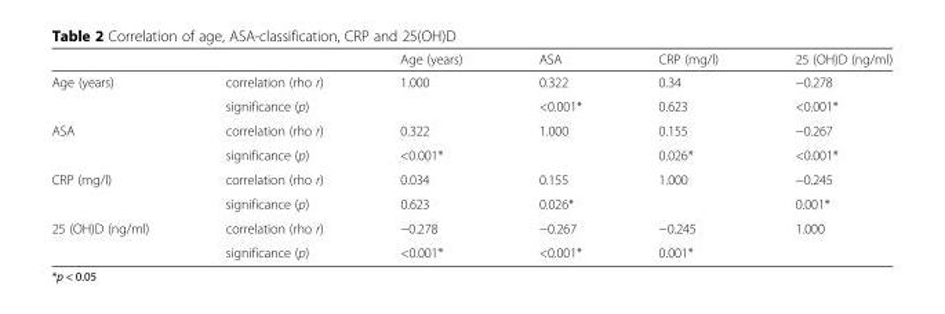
<table><thead><tr><td></td><td></td><td>Age (years)</td><td>ASA</td><td>CRP (mg/l)</td><td>25 (OH)D (ng/ml)</td></tr></thead><tbody><tr><td rowspan="2">Age (years)</td><td>correlation (rho r)</td><td>1.000</td><td>0.322</td><td>0.34</td><td>−0.278</td></tr><tr><td>significance (p)</td><td></td><td>&lt;0.001*</td><td>0.623</td><td>&lt;0.001*</td></tr><tr><td rowspan="2">ASA</td><td>correlation (rho r)</td><td>0.322</td><td>1.000</td><td>0.155</td><td>−0.267</td></tr><tr><td>significance (p)</td><td>&lt;0.001*</td><td></td><td>0.026*</td><td>&lt;0.001*</td></tr><tr><td rowspan="2">CRP (mg/l)</td><td>correlation (rho r)</td><td>0.034</td><td>0.155</td><td>1.000</td><td>−0.245</td></tr><tr><td>significance (p)</td><td>0.623</td><td>0.026*</td><td></td><td>0.001*</td></tr><tr><td rowspan="2">25 (OH)D (ng/ml)</td><td>correlation (rho r)</td><td>−0.278</td><td>−0.267</td><td>−0.245</td><td>1.000</td></tr><tr><td>significance (p)</td><td>&lt;0.001*</td><td>&lt;0.001*</td><td>0.001*</td><td></td></tr></tbody></table>